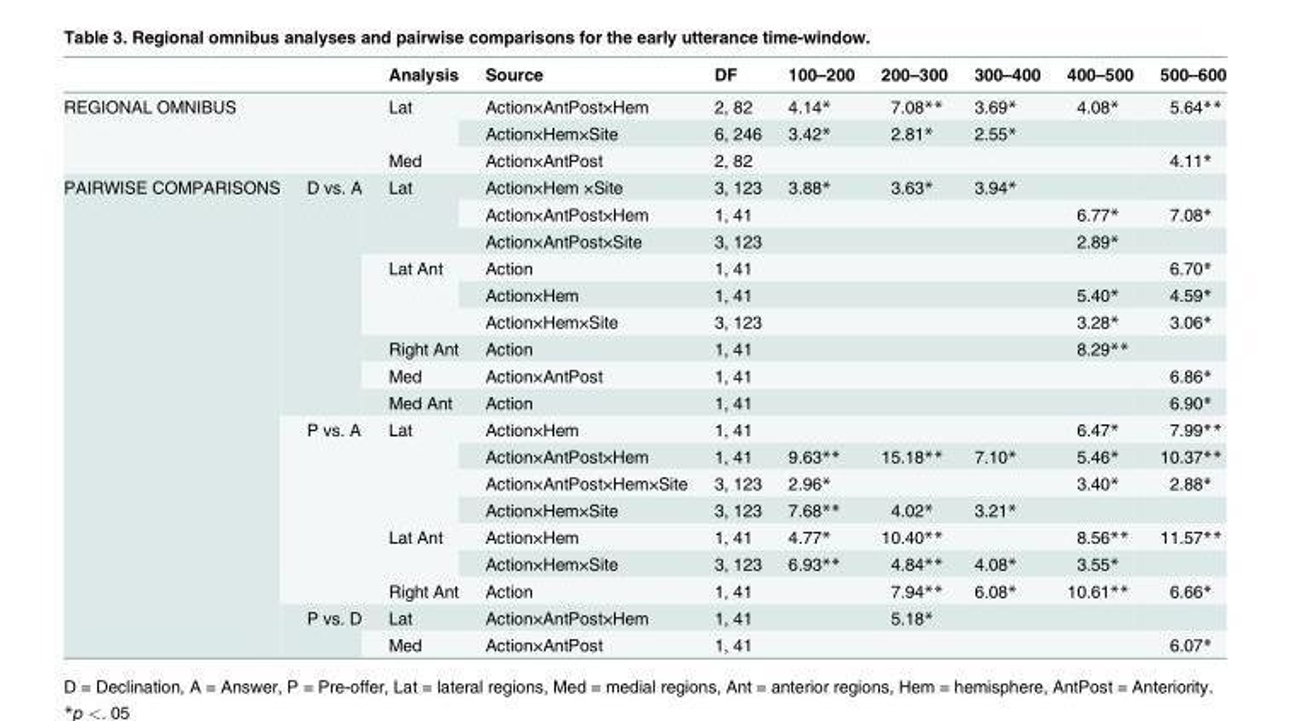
<table><thead><tr><td></td><td></td><td>Analysis</td><td>Source</td><td>DF</td><td>100–200</td><td>200–300</td><td>300–400</td><td>400–500</td><td>500–600</td></tr></thead><tbody><tr><td rowspan="3" colspan="2">REGIONAL OMNIBUS</td><td rowspan="2">Lat</td><td>Action×AntPost×Hem</td><td>2, 82</td><td>4.14*</td><td>7.08**</td><td>3.69*</td><td>4.08*</td><td>5.64**</td></tr><tr><td>Action×Hem×Site</td><td>6, 246</td><td>3.42*</td><td>2.81*</td><td>2.55*</td><td></td><td></td></tr><tr><td>Med</td><td>Action×AntPost</td><td>2, 82</td><td></td><td></td><td></td><td></td><td>4.11*</td></tr><tr><td rowspan="18">PAIRWISE COMPARISONS</td><td rowspan="9">D vs. A</td><td rowspan="3">Lat</td><td>Action×Hem ×Site</td><td>3, 123</td><td>3.88*</td><td>3.63*</td><td>3.94*</td><td></td><td></td></tr><tr><td>Action×AntPost×Hem</td><td>1, 41</td><td></td><td></td><td></td><td>6.77*</td><td>7.08*</td></tr><tr><td>Action×AntPost×Site</td><td>3, 123</td><td></td><td></td><td></td><td>2.89*</td><td></td></tr><tr><td rowspan="3">Lat Ant</td><td>Action</td><td>1, 41</td><td></td><td></td><td></td><td></td><td>6.70*</td></tr><tr><td>Action×Hem</td><td>1, 41</td><td></td><td></td><td></td><td>5.40*</td><td>4.59*</td></tr><tr><td>Action×Hem×Site</td><td>3, 123</td><td></td><td></td><td></td><td>3.28*</td><td>3.06*</td></tr><tr><td>Right Ant</td><td>Action</td><td>1, 41</td><td></td><td></td><td></td><td>8.29**</td><td></td></tr><tr><td>Med</td><td>Action×AntPost</td><td>1, 41</td><td></td><td></td><td></td><td></td><td>6.86*</td></tr><tr><td>Med Ant</td><td>Action</td><td>1, 41</td><td></td><td></td><td></td><td></td><td>6.90*</td></tr><tr><td rowspan="7">P vs. A</td><td rowspan="4">Lat</td><td>Action×Hem</td><td>1, 41</td><td></td><td></td><td></td><td>6.47*</td><td>7.99**</td></tr><tr><td>Action×AntPost×Hem</td><td>1, 41</td><td>9.63**</td><td>15.18**</td><td>7.10*</td><td>5.46*</td><td>10.37**</td></tr><tr><td>Action×AntPost×Hem×Site</td><td>3, 123</td><td>2.96*</td><td></td><td></td><td>3.40*</td><td>2.88*</td></tr><tr><td>Action×Hem×Site</td><td>3, 123</td><td>7.68**</td><td>4.02*</td><td>3.21*</td><td></td><td></td></tr><tr><td rowspan="2">Lat Ant</td><td>Action×Hem</td><td>1, 41</td><td>4.77*</td><td>10.40**</td><td></td><td>8.56**</td><td>11.57**</td></tr><tr><td>Action×Hem×Site</td><td>3, 123</td><td>6.93**</td><td>4.84**</td><td>4.08*</td><td>3.55*</td><td></td></tr><tr><td>Right Ant</td><td>Action</td><td>1, 41</td><td></td><td>7.94**</td><td>6.08*</td><td>10.61**</td><td>6.66*</td></tr><tr><td rowspan="2">P vs. D</td><td>Lat</td><td>Action×AntPost×Hem</td><td>1, 41</td><td></td><td>5.18*</td><td></td><td></td><td></td></tr><tr><td>Med</td><td>Action×AntPost</td><td>1, 41</td><td></td><td></td><td></td><td></td><td>6.07*</td></tr></tbody></table>